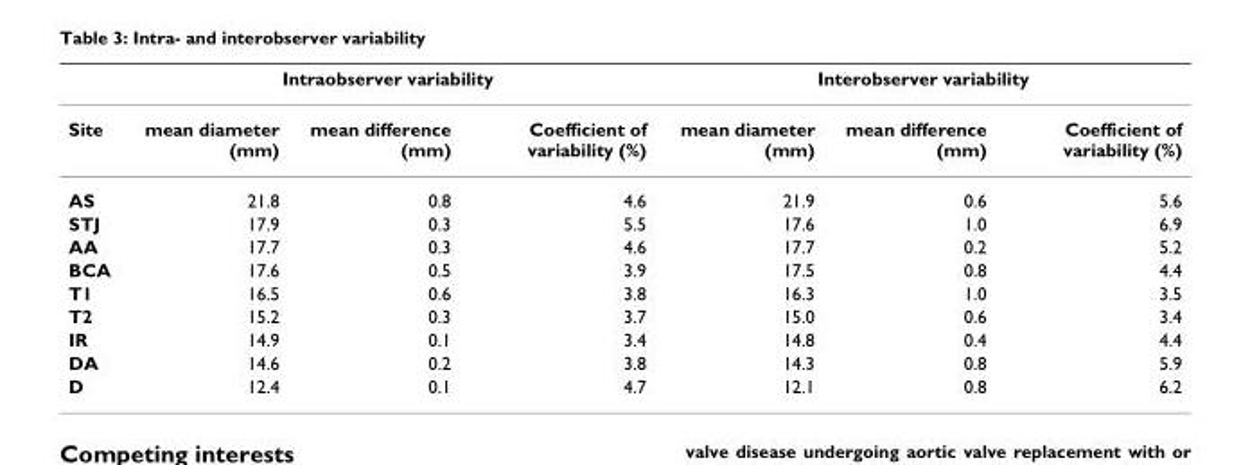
<table><thead><tr><td rowspan="2">Site</td><td colspan="3">Intraobserver variability</td><td colspan="3">Interobserver variability</td></tr><tr><td>mean diameter (mm)</td><td>mean difference (mm)</td><td>Coefficient of variability (%)</td><td>mean diameter (mm)</td><td>mean difference (mm)</td><td>Coefficient of variability (%)</td></tr></thead><tbody><tr><td>AS</td><td>21.8</td><td>0.8</td><td>4.6</td><td>21.9</td><td>0.6</td><td>5.6</td></tr><tr><td>STJ</td><td>17.9</td><td>0.3</td><td>5.5</td><td>17.6</td><td>1.0</td><td>6.9</td></tr><tr><td>AA</td><td>17.7</td><td>0.3</td><td>4.6</td><td>17.7</td><td>0.2</td><td>5.2</td></tr><tr><td>BCA</td><td>17.6</td><td>0.5</td><td>3.9</td><td>17.5</td><td>0.8</td><td>4.4</td></tr><tr><td>T1</td><td>16.5</td><td>0.6</td><td>3.8</td><td>16.3</td><td>1.0</td><td>3.5</td></tr><tr><td>T2</td><td>15.2</td><td>0.3</td><td>3.7</td><td>15.0</td><td>0.6</td><td>3.4</td></tr><tr><td>IR</td><td>14.9</td><td>0.1</td><td>3.4</td><td>14.8</td><td>0.4</td><td>4.4</td></tr><tr><td>DA</td><td>14.6</td><td>0.2</td><td>3.8</td><td>14.3</td><td>0.8</td><td>5.9</td></tr><tr><td>D</td><td>12.4</td><td>0.1</td><td>4.7</td><td>12.1</td><td>0.8</td><td>6.2</td></tr></tbody></table>